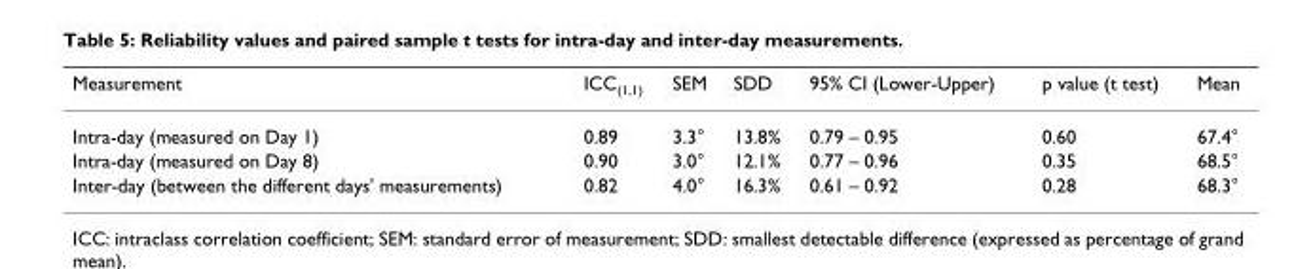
<table><thead><tr><td>Measurement</td><td>ICC<sub>(1,1)</sub></td><td>SEM</td><td>SDD</td><td>95% CI (Lower-Upper)</td><td>p value (t test)</td><td>Mean</td></tr></thead><tbody><tr><td>Intra-day (measured on Day 1)</td><td>0.89</td><td>3.3°</td><td>13.8%</td><td>0.79 – 0.95</td><td>0.60</td><td>67.4°</td></tr><tr><td>Intra-day (measured on Day 8)</td><td>0.90</td><td>3.0°</td><td>12.1%</td><td>0.77 – 0.96</td><td>0.35</td><td>68.5°</td></tr><tr><td>Inter-day (between the different days&#x27; measurements)</td><td>0.82</td><td>4.0°</td><td>16.3%</td><td>0.61 – 0.92</td><td>0.28</td><td>68.3°</td></tr></tbody></table>